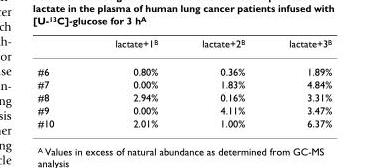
<table><thead><tr><td></td><td>lactate+1<sup>B</sup></td><td>lactate+2<sup>B</sup></td><td>lactate+3<sup>B</sup></td></tr></thead><tbody><tr><td>#6</td><td>0.80%</td><td>0.36%</td><td>1.89%</td></tr><tr><td>#7</td><td>0.00%</td><td>1.83%</td><td>4.84%</td></tr><tr><td>#8</td><td>2.94%</td><td>0.16%</td><td>3.31%</td></tr><tr><td>#9</td><td>0.00%</td><td>4.11%</td><td>3.47%</td></tr><tr><td>#10</td><td>2.01%</td><td>1.00%</td><td>6.37%</td></tr></tbody></table>